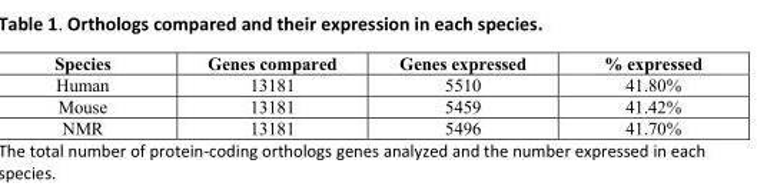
<table><thead><tr><td>Species</td><td>Genes compared</td><td>Genes expressed</td><td>% expressed</td></tr></thead><tbody><tr><td>Human</td><td>13181</td><td>5510</td><td>41.80%</td></tr><tr><td>Mouse</td><td>13181</td><td>5459</td><td>41.42%</td></tr><tr><td>NMR</td><td>13181</td><td>5496</td><td>41.70%</td></tr></tbody></table>